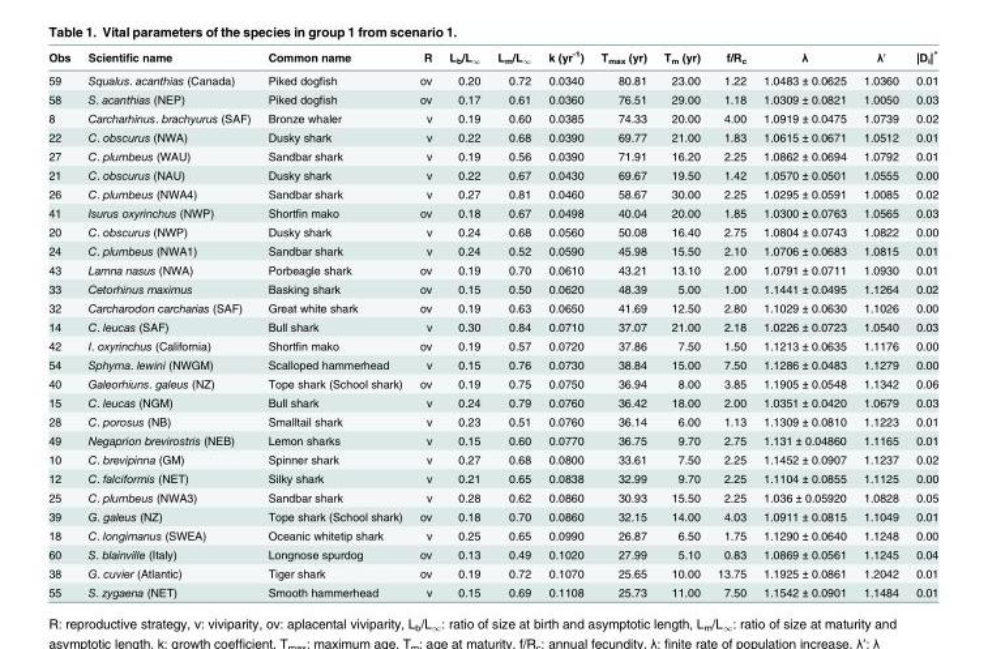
<table><thead><tr><td>Obs</td><td>Scientific name</td><td>Common name</td><td>R</td><td>L<sub>b</sub>/L<sub>∞</sub></td><td>L<sub>m</sub>/L<sub>∞</sub></td><td>k (yr<sup>-1</sup>)</td><td>T<sub>max</sub> (yr)</td><td>T<sub>m</sub> (yr)</td><td>f/R<sub>c</sub></td><td>λ</td><td>λ′</td><td>|D<sub>i</sub>|*</td></tr></thead><tbody><tr><td>59</td><td>Squalus. acanthias (Canada)</td><td>Piked dogfish</td><td>ov</td><td>0.20</td><td>0.72</td><td>0.0340</td><td>80.81</td><td>23.00</td><td>1.22</td><td>1.0483 ± 0.0625</td><td>1.0360</td><td>0.01</td></tr><tr><td>58</td><td>S. acanthias (NEP)</td><td>Piked dogfish</td><td>ov</td><td>0.17</td><td>0.61</td><td>0.0360</td><td>76.51</td><td>29.00</td><td>1.18</td><td>1.0309 ± 0.0821</td><td>1.0050</td><td>0.03</td></tr><tr><td>8</td><td>Carcharhinus. brachyurus (SAF)</td><td>Bronze whaler</td><td>v</td><td>0.19</td><td>0.60</td><td>0.0385</td><td>74.33</td><td>20.00</td><td>4.00</td><td>1.0919 ± 0.0475</td><td>1.0739</td><td>0.02</td></tr><tr><td>22</td><td>C. obscurus (NWA)</td><td>Dusky shark</td><td>v</td><td>0.22</td><td>0.68</td><td>0.0390</td><td>69.77</td><td>21.00</td><td>1.83</td><td>1.0615 ± 0.0671</td><td>1.0512</td><td>0.01</td></tr><tr><td>27</td><td>C. plumbeus (WAU)</td><td>Sandbar shark</td><td>v</td><td>0.19</td><td>0.56</td><td>0.0390</td><td>71.91</td><td>16.20</td><td>2.25</td><td>1.0862 ± 0.0694</td><td>1.0792</td><td>0.01</td></tr><tr><td>21</td><td>C. obscurus (NAU)</td><td>Dusky shark</td><td>v</td><td>0.22</td><td>0.67</td><td>0.0430</td><td>69.67</td><td>19.50</td><td>1.42</td><td>1.0570 ± 0.0501</td><td>1.0555</td><td>0.00</td></tr><tr><td>26</td><td>C. plumbeus (NWA4)</td><td>Sandbar shark</td><td>v</td><td>0.27</td><td>0.81</td><td>0.0460</td><td>58.67</td><td>30.00</td><td>2.25</td><td>1.0295 ± 0.0591</td><td>1.0085</td><td>0.02</td></tr><tr><td>41</td><td>Isurus oxyrinchus (NWP)</td><td>Shortfin mako</td><td>ov</td><td>0.18</td><td>0.67</td><td>0.0498</td><td>40.04</td><td>20.00</td><td>1.85</td><td>1.0300 ± 0.0763</td><td>1.0565</td><td>0.03</td></tr><tr><td>20</td><td>C. obscurus (NWP)</td><td>Dusky shark</td><td>v</td><td>0.24</td><td>0.68</td><td>0.0560</td><td>50.08</td><td>16.40</td><td>2.75</td><td>1.0804 ± 0.0743</td><td>1.0822</td><td>0.00</td></tr><tr><td>24</td><td>C. plumbeus (NWA1)</td><td>Sandbar shark</td><td>v</td><td>0.24</td><td>0.52</td><td>0.0590</td><td>45.98</td><td>15.50</td><td>2.10</td><td>1.0706 ± 0.0683</td><td>1.0815</td><td>0.01</td></tr><tr><td>43</td><td>Lamna nasus (NWA)</td><td>Porbeagle shark</td><td>ov</td><td>0.19</td><td>0.70</td><td>0.0610</td><td>43.21</td><td>13.10</td><td>2.00</td><td>1.0791 ± 0.0711</td><td>1.0930</td><td>0.01</td></tr><tr><td>33</td><td>Cetorhinus maximus</td><td>Basking shark</td><td>ov</td><td>0.15</td><td>0.50</td><td>0.0620</td><td>48.39</td><td>5.00</td><td>1.00</td><td>1.1441 ± 0.0495</td><td>1.1264</td><td>0.02</td></tr><tr><td>32</td><td>Carcharodon carcharias (SAF)</td><td>Great white shark</td><td>ov</td><td>0.19</td><td>0.63</td><td>0.0650</td><td>41.69</td><td>12.50</td><td>2.80</td><td>1.1029 ± 0.0630</td><td>1.1026</td><td>0.00</td></tr><tr><td>14</td><td>C. leucas (SAF)</td><td>Bull shark</td><td>v</td><td>0.30</td><td>0.84</td><td>0.0710</td><td>37.07</td><td>21.00</td><td>2.18</td><td>1.0226 ± 0.0723</td><td>1.0540</td><td>0.03</td></tr><tr><td>42</td><td>I. oxyrinchus (California)</td><td>Shortfin mako</td><td>ov</td><td>0.19</td><td>0.57</td><td>0.0720</td><td>37.86</td><td>7.50</td><td>1.50</td><td>1.1213 ± 0.0635</td><td>1.1176</td><td>0.00</td></tr><tr><td>54</td><td>Sphyrna. lewini (NWGM)</td><td>Scalloped hammerhead</td><td>v</td><td>0.15</td><td>0.76</td><td>0.0730</td><td>38.84</td><td>15.00</td><td>7.50</td><td>1.1286 ± 0.0483</td><td>1.1279</td><td>0.00</td></tr><tr><td>40</td><td>Galeorhiuns. galeus (NZ)</td><td>Tope shark (School shark)</td><td>ov</td><td>0.19</td><td>0.75</td><td>0.0750</td><td>36.94</td><td>8.00</td><td>3.85</td><td>1.1905 ± 0.0548</td><td>1.1342</td><td>0.06</td></tr><tr><td>15</td><td>C. leucas (NGM)</td><td>Bull shark</td><td>v</td><td>0.24</td><td>0.79</td><td>0.0760</td><td>36.42</td><td>18.00</td><td>2.00</td><td>1.0351 ± 0.0420</td><td>1.0679</td><td>0.03</td></tr><tr><td>28</td><td>C. porosus (NB)</td><td>Smalltail shark</td><td>v</td><td>0.23</td><td>0.51</td><td>0.0760</td><td>36.14</td><td>6.00</td><td>1.13</td><td>1.1309 ± 0.0810</td><td>1.1223</td><td>0.01</td></tr><tr><td>49</td><td>Negaprion brevirostris (NEB)</td><td>Lemon sharks</td><td>v</td><td>0.15</td><td>0.60</td><td>0.0770</td><td>36.75</td><td>9.70</td><td>2.75</td><td>1.131 ± 0.04860</td><td>1.1165</td><td>0.01</td></tr><tr><td>10</td><td>C. brevipinna (GM)</td><td>Spinner shark</td><td>v</td><td>0.27</td><td>0.68</td><td>0.0800</td><td>33.61</td><td>7.50</td><td>2.25</td><td>1.1452 ± 0.0907</td><td>1.1237</td><td>0.02</td></tr><tr><td>12</td><td>C. falciformis (NET)</td><td>Silky shark</td><td>v</td><td>0.21</td><td>0.65</td><td>0.0838</td><td>32.99</td><td>9.70</td><td>2.25</td><td>1.1104 ± 0.0855</td><td>1.1125</td><td>0.00</td></tr><tr><td>25</td><td>C. plumbeus (NWA3)</td><td>Sandbar shark</td><td>v</td><td>0.28</td><td>0.62</td><td>0.0860</td><td>30.93</td><td>15.50</td><td>2.25</td><td>1.036 ± 0.05920</td><td>1.0828</td><td>0.05</td></tr><tr><td>39</td><td>G. galeus (NZ)</td><td>Tope shark (School shark)</td><td>ov</td><td>0.18</td><td>0.70</td><td>0.0860</td><td>32.15</td><td>14.00</td><td>4.03</td><td>1.0911 ± 0.0815</td><td>1.1049</td><td>0.01</td></tr><tr><td>18</td><td>C. longimanus (SWEA)</td><td>Oceanic whitetip shark</td><td>v</td><td>0.25</td><td>0.65</td><td>0.0990</td><td>26.87</td><td>6.50</td><td>1.75</td><td>1.1290 ± 0.0640</td><td>1.1248</td><td>0.00</td></tr><tr><td>60</td><td>S. blainville (Italy)</td><td>Longnose spurdog</td><td>ov</td><td>0.13</td><td>0.49</td><td>0.1020</td><td>27.99</td><td>5.10</td><td>0.83</td><td>1.0869 ± 0.0561</td><td>1.1245</td><td>0.04</td></tr><tr><td>38</td><td>G. cuvier (Atlantic)</td><td>Tiger shark</td><td>ov</td><td>0.19</td><td>0.72</td><td>0.1070</td><td>25.65</td><td>10.00</td><td>13.75</td><td>1.1925 ± 0.0861</td><td>1.2042</td><td>0.01</td></tr><tr><td>55</td><td>S. zygaena (NET)</td><td>Smooth hammerhead</td><td>v</td><td>0.15</td><td>0.69</td><td>0.1108</td><td>25.73</td><td>11.00</td><td>7.50</td><td>1.1542 ± 0.0901</td><td>1.1484</td><td>0.01</td></tr></tbody></table>